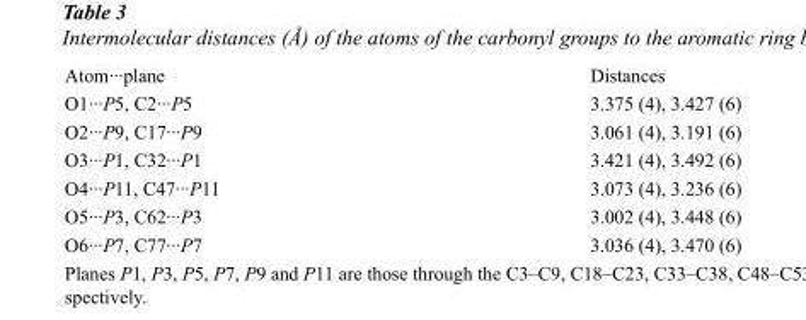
<table><tbody><tr><td>Atom···plane</td><td>Distances</td></tr><tr><td>O1···P5, C2···P5</td><td>3.375 (4), 3.427 (6)</td></tr><tr><td>O2···P9, C17···P9</td><td>3.061 (4), 3.191 (6)</td></tr><tr><td>O3···P1, C32···P1</td><td>3.421 (4), 3.492 (6)</td></tr><tr><td>O4···P11, C47···P11</td><td>3.073 (4), 3.236 (6)</td></tr><tr><td>O5···P3, C62···P3</td><td>3.002 (4), 3.448 (6)</td></tr><tr><td>O6···P7, C77···P7</td><td>3.036 (4), 3.470 (6)</td></tr></tbody></table>